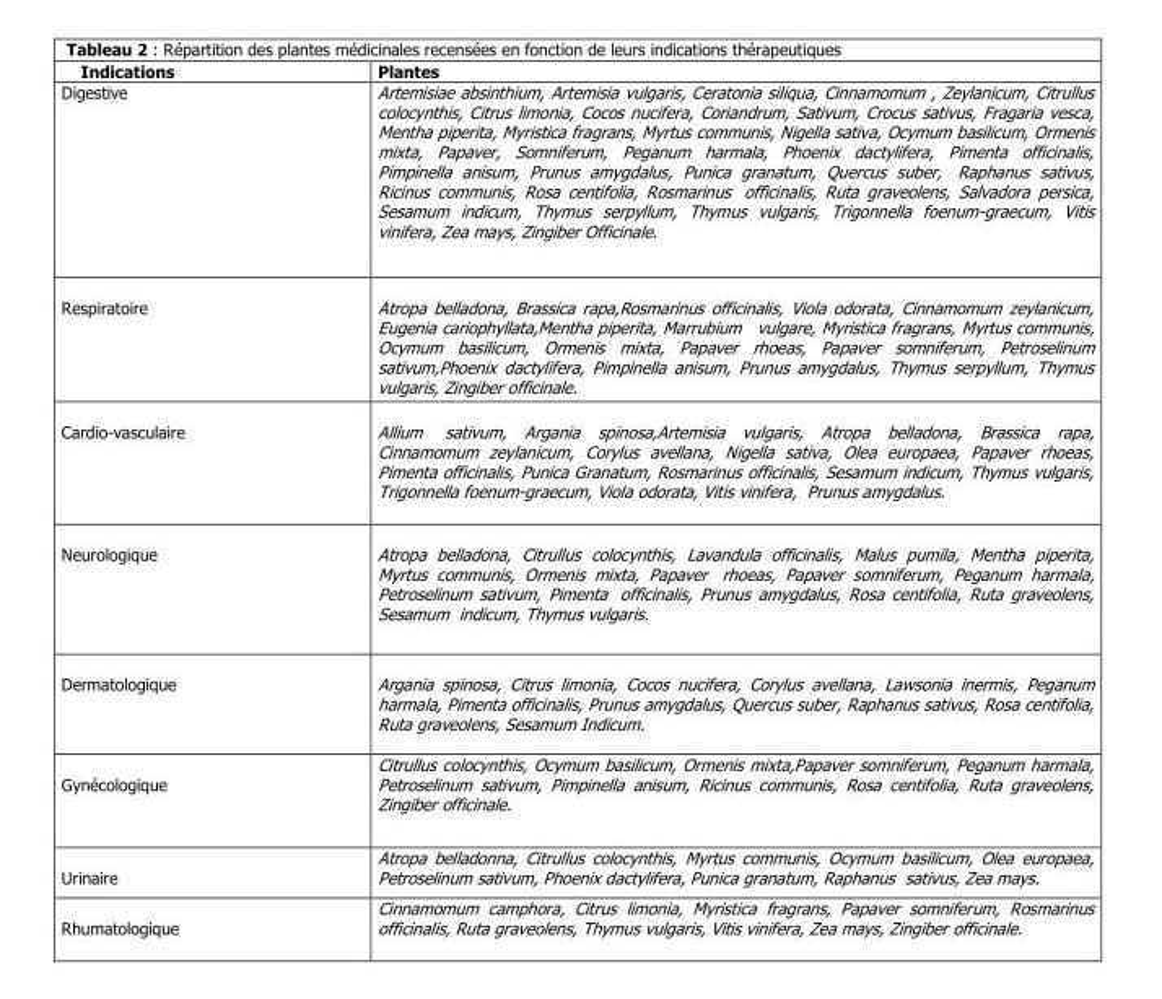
<table><thead><tr><td>Indications</td><td>Plantes</td></tr></thead><tbody><tr><td>Digestive</td><td>Artemisiae absinthium, Artemisia vulgaris, Ceratonia siliqua, Cinnamomum , Zeylanicum, Citrullus colocynthis, Citrus limonia, Cocos nucifera, Coriandrum, Sativum, Crocus sativus, Fragaria vesca, Mentha piperita, Myristica fragrans, Myrtus communis, Nigella sativa, Ocymum basilicum, Ormenis mixta, Papaver, Somniferum, Peganum harmala, Phoenix dactylifera, Pimenta officinalis, Pimpinella anisum, Prunus amygdalus, Punica granatum, Quercus suber, Raphanus sativus, Ricinus communis, Rosa centifolia, Rosmarinus officinalis, Ruta graveolens, Salvadora persica, Sesamum indicum, Thymus serpyllum, Thymus vulgaris, Trigonnella foenum-graecum, Vitis vinifera, Zea mays, Zingiber Officinale.</td></tr><tr><td>Respiratoire</td><td>Atropa belladona, Brassica rapa,Rosmarinus officinalis, Viola odorata, Cinnamomum zeylanicum, Eugenia cariophyllata,Mentha piperita, Marrubium vulgare, Myristica fragrans, Myrtus communis, Ocymum basilicum, Ormenis mixta, Papaver rhoeas, Papaver somniferum, Petroselinum sativum,Phoenix dactylifera, Pimpinella anisum, Prunus amygdalus, Thymus serpyllum, Thymus vulgaris, Zingiber officinale.</td></tr><tr><td>Cardio-vasculaire</td><td>Allium sativum, Argania spinosa,Artemisia vulgaris, Atropa belladona, Brassica rapa, Cinnamomum zeylanicum, Corylus avellana, Nigella sativa, Olea europaea, Papaver rhoeas, Pimenta officinalis, Punica Granatum, Rosmarinus officinalis, Sesamum indicum, Thymus vulgaris, Trigonnella foenum-graecum, Viola odorata, Vitis vinifera, Prunus amygdalus.</td></tr><tr><td>Neurologique</td><td>Atropa belladona, Citrullus colocynthis, Lavandula officinalis, Malus pumila, Mentha piperita, Myrtus communis, Ormenis mixta, Papaver rhoeas, Papaver somniferum, Peganum harmala, Petroselinum sativum, Pimenta officinalis, Prunus amygdalus, Rosa centifolia, Ruta graveolens, Sesamum indicum, Thymus vulgaris.</td></tr><tr><td>Dermatologique</td><td>Argania spinosa, Citrus limonia, Cocos nucifera, Corylus avellana, Lawsonia inermis, Peganum harmala, Pimenta officinalis, Prunus amygdalus, Quercus suber, Raphanus sativus, Rosa centifolia, Ruta graveolens, Sesamum Indicum.</td></tr><tr><td>Gynécologique</td><td>Citrullus colocynthis, Ocymum basilicum, Ormenis mixta,Papaver somniferum, Peganum harmala, Petroselinum sativum, Pimpinella anisum, Ricinus communis, Rosa centifolia, Ruta graveolens, Zingiber officinale.</td></tr><tr><td>Urinaire</td><td>Atropa belladonna, Citrullus colocynthis, Myrtus communis, Ocymum basilicum, Olea europaea, Petroselinum sativum, Phoenix dactylifera, Punica granatum, Raphanus sativus, Zea mays.</td></tr><tr><td>Rhumatologique</td><td>Cinnamomum camphora, Citrus limonia, Myristica fragrans, Papaver somniferum, Rosmarinus officinalis, Ruta graveolens, Thymus vulgaris, Vitis vinifera, Zea mays, Zingiber officinale.</td></tr></tbody></table>